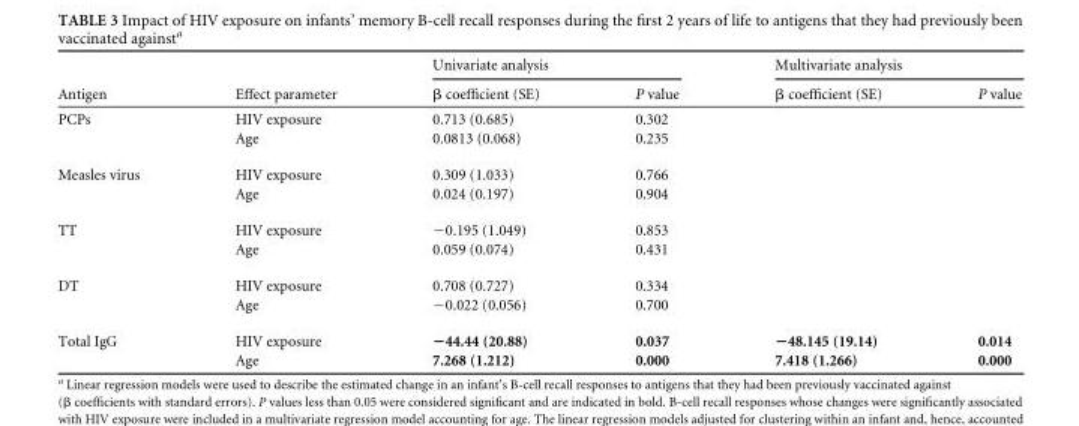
<table><thead><tr><td rowspan="2">Antigen</td><td rowspan="2">Effect parameter</td><td colspan="2">Univariate analysis</td><td colspan="2">Multivariate analysis</td></tr><tr><td>β coefficient (SE)</td><td>P value</td><td>β coefficient (SE)</td><td>P value</td></tr></thead><tbody><tr><td rowspan="2">PCPs</td><td>HIV exposure</td><td>0.713 (0.685)</td><td>0.302</td><td></td><td></td></tr><tr><td>Age</td><td>0.0813 (0.068)</td><td>0.235</td><td></td><td></td></tr><tr><td rowspan="2">Measles virus</td><td>HIV exposure</td><td>0.309 (1.033)</td><td>0.766</td><td></td><td></td></tr><tr><td>Age</td><td>0.024 (0.197)</td><td>0.904</td><td></td><td></td></tr><tr><td rowspan="2">TT</td><td>HIV exposure</td><td>−0.195 (1.049)</td><td>0.853</td><td></td><td></td></tr><tr><td>Age</td><td>0.059 (0.074)</td><td>0.431</td><td></td><td></td></tr><tr><td rowspan="2">DT</td><td>HIV exposure</td><td>0.708 (0.727)</td><td>0.334</td><td></td><td></td></tr><tr><td>Age</td><td>−0.022 (0.056)</td><td>0.700</td><td></td><td></td></tr><tr><td rowspan="2">Total IgG</td><td>HIV exposure</td><td>−44.44 (20.88)</td><td>0.037</td><td>−48.145 (19.14)</td><td>0.014</td></tr><tr><td>Age</td><td>7.268 (1.212)</td><td>0.000</td><td>7.418 (1.266)</td><td>0.000</td></tr></tbody></table>